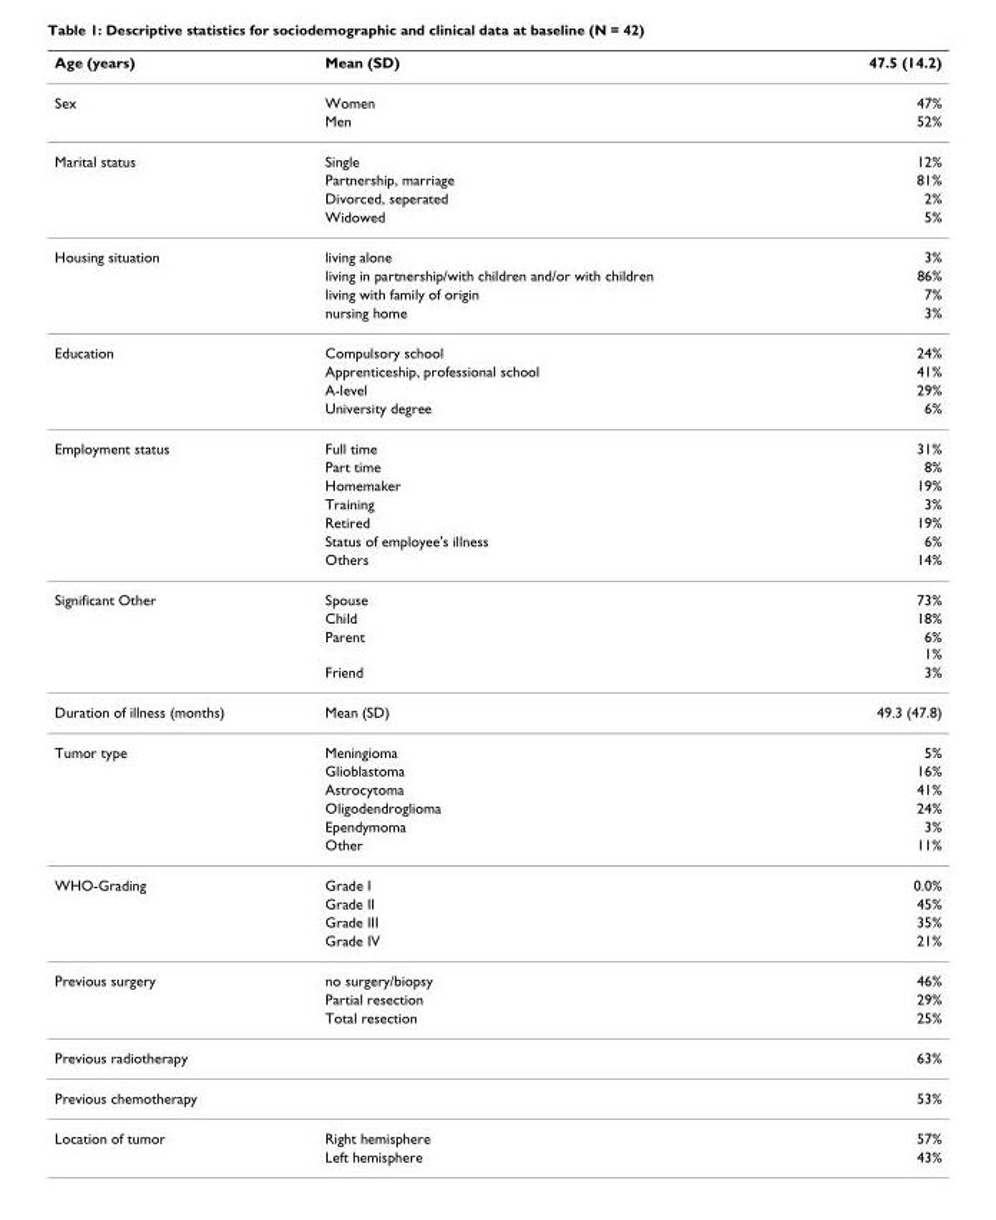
<table><thead><tr><td>Age (years)</td><td>Mean (SD)</td><td>47.5 (14.2)</td></tr></thead><tbody><tr><td rowspan="2">Sex</td><td>Women</td><td>47%</td></tr><tr><td>Men</td><td>52%</td></tr><tr><td rowspan="4">Marital status</td><td>Single</td><td>12%</td></tr><tr><td>Partnership, marriage</td><td>81%</td></tr><tr><td>Divorced, seperated</td><td>2%</td></tr><tr><td>Widowed</td><td>5%</td></tr><tr><td rowspan="4">Housing situation</td><td>living alone</td><td>3%</td></tr><tr><td>living in partnership/with children and/or with children</td><td>86%</td></tr><tr><td>living with family of origin</td><td>7%</td></tr><tr><td>nursing home</td><td>3%</td></tr><tr><td rowspan="4">Education</td><td>Compulsory school</td><td>24%</td></tr><tr><td>Apprenticeship, professional school</td><td>41%</td></tr><tr><td>A-level</td><td>29%</td></tr><tr><td>University degree</td><td>6%</td></tr><tr><td rowspan="7">Employment status</td><td>Full time</td><td>31%</td></tr><tr><td>Part time</td><td>8%</td></tr><tr><td>Homemaker</td><td>19%</td></tr><tr><td>Training</td><td>3%</td></tr><tr><td>Retired</td><td>19%</td></tr><tr><td>Status of employee&#x27;s illness</td><td>6%</td></tr><tr><td>Others</td><td>14%</td></tr><tr><td rowspan="4">Significant Other</td><td>Spouse</td><td>73%</td></tr><tr><td>Child</td><td>18%</td></tr><tr><td>Parent</td><td>6% 1%</td></tr><tr><td>Friend</td><td>3%</td></tr><tr><td>Duration of illness (months)</td><td>Mean (SD)</td><td>49.3 (47.8)</td></tr><tr><td rowspan="6">Tumor type</td><td>Meningioma</td><td>5%</td></tr><tr><td>Glioblastoma</td><td>16%</td></tr><tr><td>Astrocytoma</td><td>41%</td></tr><tr><td>Oligodendroglioma</td><td>24%</td></tr><tr><td>Ependymoma</td><td>3%</td></tr><tr><td>Other</td><td>11%</td></tr><tr><td rowspan="4">WHO-Grading</td><td>Grade I</td><td>0.0%</td></tr><tr><td>Grade II</td><td>45%</td></tr><tr><td>Grade III</td><td>35%</td></tr><tr><td>Grade IV</td><td>21%</td></tr><tr><td rowspan="3">Previous surgery</td><td>no surgery/biopsy</td><td>46%</td></tr><tr><td>Partial resection</td><td>29%</td></tr><tr><td>Total resection</td><td>25%</td></tr><tr><td>Previous radiotherapy</td><td></td><td>63%</td></tr><tr><td>Previous chemotherapy</td><td></td><td>53%</td></tr><tr><td rowspan="2">Location of tumor</td><td>Right hemisphere</td><td>57%</td></tr><tr><td>Left hemisphere</td><td>43%</td></tr></tbody></table>